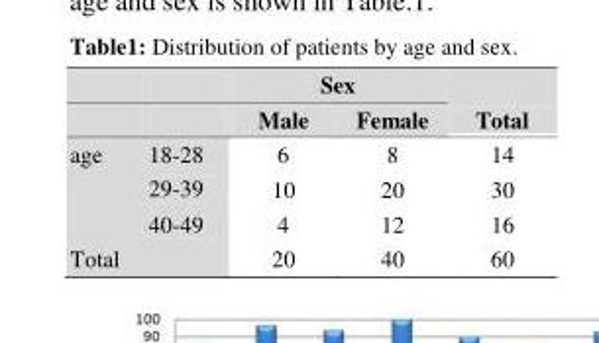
<table><thead><tr><td rowspan="5">age</td><td rowspan="5">18-28 29-39 40-49</td><td colspan="2">Sex</td><td rowspan="5">Total 14 30 16</td></tr><tr><td rowspan="4">Male 6 10 4</td><td rowspan="4">Female 8 20 12</td></tr><tr></tr><tr></tr><tr></tr></thead><tbody><tr><td colspan="2">Total</td><td>20</td><td>40</td><td>60</td></tr></tbody></table>